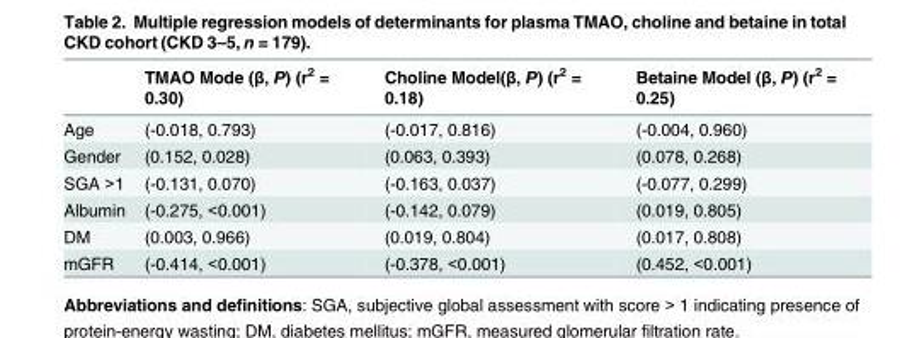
<table><thead><tr><td></td><td>TMAO Mode (β, P) (r<sup>2</sup> = 0.30)</td><td>Choline Model(β, P) (r<sup>2</sup> = 0.18)</td><td>Betaine Model (β, P) (r<sup>2</sup> = 0.25)</td></tr></thead><tbody><tr><td>Age</td><td>(-0.018, 0.793)</td><td>(-0.017, 0.816)</td><td>(-0.004, 0.960)</td></tr><tr><td>Gender</td><td>(0.152, 0.028)</td><td>(0.063, 0.393)</td><td>(0.078, 0.268)</td></tr><tr><td>SGA &gt;1</td><td>(-0.131, 0.070)</td><td>(-0.163, 0.037)</td><td>(-0.077, 0.299)</td></tr><tr><td>Albumin</td><td>(-0.275, &lt;0.001)</td><td>(-0.142, 0.079)</td><td>(0.019, 0.805)</td></tr><tr><td>DM</td><td>(0.003, 0.966)</td><td>(0.019, 0.804)</td><td>(0.017, 0.808)</td></tr><tr><td>mGFR</td><td>(-0.414, &lt;0.001)</td><td>(-0.378, &lt;0.001)</td><td>(0.452, &lt;0.001)</td></tr></tbody></table>